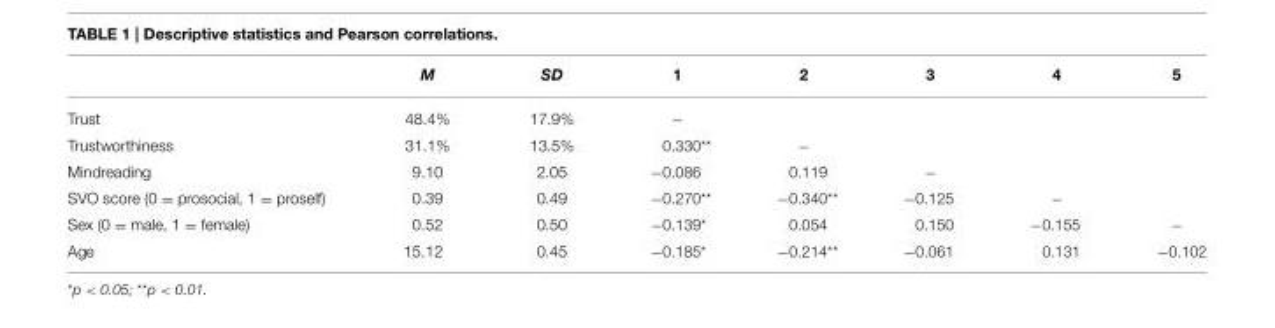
<table><thead><tr><td></td><td>M</td><td>SD</td><td>1</td><td>2</td><td>3</td><td>4</td><td>5</td></tr></thead><tbody><tr><td>Trust</td><td>48.4%</td><td>17.9%</td><td>−</td><td></td><td></td><td></td><td></td></tr><tr><td>Trustworthiness</td><td>31.1%</td><td>13.5%</td><td>0.330**</td><td>−</td><td></td><td></td><td></td></tr><tr><td>Mindreading</td><td>9.10</td><td>2.05</td><td>−0.086</td><td>0.119</td><td>−</td><td></td><td></td></tr><tr><td>SVO score (0 = prosocial, 1 = proself)</td><td>0.39</td><td>0.49</td><td>−0.270**</td><td>−0.340**</td><td>−0.125</td><td>−</td><td></td></tr><tr><td>Sex (0 = male, 1 = female)</td><td>0.52</td><td>0.50</td><td>−0.139*</td><td>0.054</td><td>0.150</td><td>−0.155</td><td>−</td></tr><tr><td>Age</td><td>15.12</td><td>0.45</td><td>−0.185*</td><td>−0.214**</td><td>−0.061</td><td>0.131</td><td>−0.102</td></tr></tbody></table>